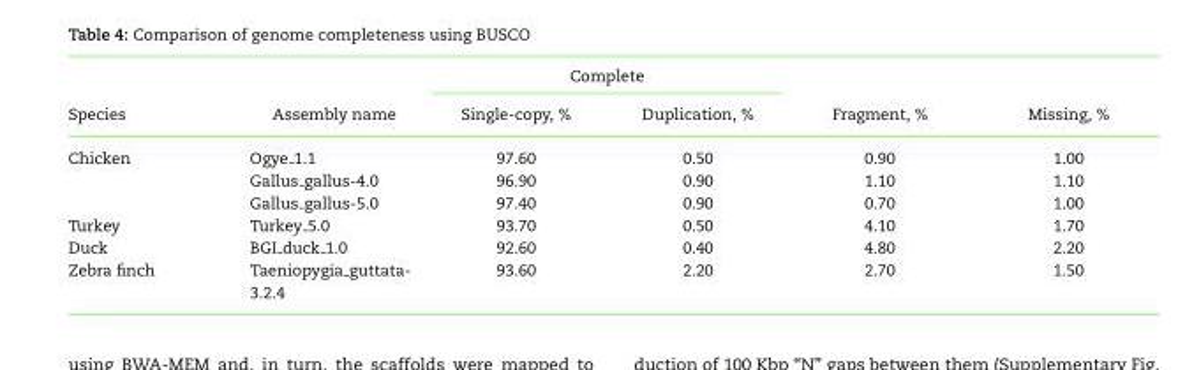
<table><thead><tr><td rowspan="2">Species</td><td rowspan="2">Assembly name</td><td colspan="2">Complete</td><td rowspan="2">Fragment, %</td><td rowspan="2">Missing, %</td></tr><tr><td>Single-copy, %</td><td>Duplication, %</td></tr></thead><tbody><tr><td rowspan="3">Chicken</td><td>Ogye 1.1</td><td>97.60</td><td>0.50</td><td>0.90</td><td>1.00</td></tr><tr><td>Gallus gallus-4.0</td><td>96.90</td><td>0.90</td><td>1.10</td><td>1.10</td></tr><tr><td>Gallus gallus-5.0</td><td>97.40</td><td>0.90</td><td>0.70</td><td>1.00</td></tr><tr><td>Turkey</td><td>Turkey 5.0</td><td>93.70</td><td>0.50</td><td>4.10</td><td>1.70</td></tr><tr><td>Duck</td><td>BGI <sub>duck</sub> 1.0</td><td>92.60</td><td>0.40</td><td>4.80</td><td>2.20</td></tr><tr><td>Zebra finch</td><td>Taeniopygia guttata- 3.2.4</td><td>93.60</td><td>2.20</td><td>2.70</td><td>1.50</td></tr></tbody></table>